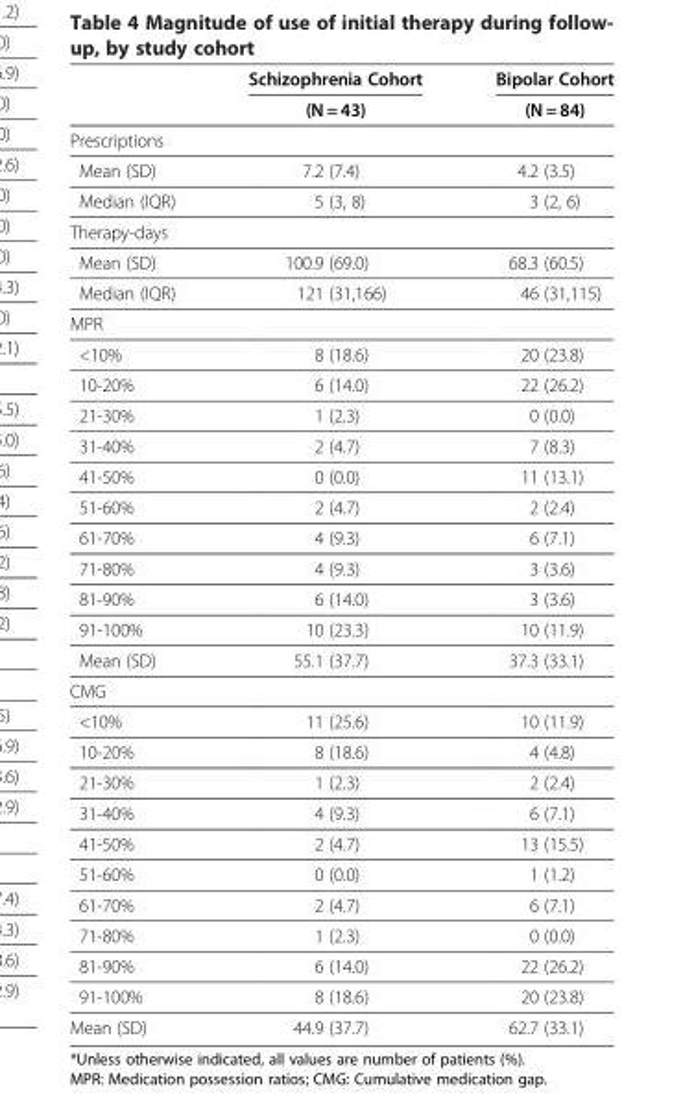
<table><thead><tr><td rowspan="2"></td><td rowspan="2">Schizophrenia Cohort (N = 43)</td><td rowspan="2">Bipolar Cohort (N = 84)</td></tr><tr></tr></thead><tbody><tr><td colspan="3">Prescriptions</td></tr><tr><td>Mean (SD)</td><td>7.2 (7.4)</td><td>4.2 (3.5)</td></tr><tr><td>Median (IQR)</td><td>5 (3, 8)</td><td>3 (2, 6)</td></tr><tr><td colspan="3">Therapy-days</td></tr><tr><td>Mean (SD)</td><td>100.9 (69.0)</td><td>68.3 (60.5)</td></tr><tr><td>Median (IQR)</td><td>121 (31,166)</td><td>46 (31,115)</td></tr><tr><td colspan="3">MPR</td></tr><tr><td>&lt;10%</td><td>8 (18.6)</td><td>20 (23.8)</td></tr><tr><td>10-20%</td><td>6 (14.0)</td><td>22 (26.2)</td></tr><tr><td>21-30%</td><td>1 (2.3)</td><td>0 (0.0)</td></tr><tr><td>31-40%</td><td>2 (4.7)</td><td>7 (8.3)</td></tr><tr><td>41-50%</td><td>0 (0.0)</td><td>11 (13.1)</td></tr><tr><td>51-60%</td><td>2 (4.7)</td><td>2 (2.4)</td></tr><tr><td>61-70%</td><td>4 (9.3)</td><td>6 (7.1)</td></tr><tr><td>71-80%</td><td>4 (9.3)</td><td>3 (3.6)</td></tr><tr><td>81-90%</td><td>6 (14.0)</td><td>3 (3.6)</td></tr><tr><td>91-100%</td><td>10 (23.3)</td><td>10 (11.9)</td></tr><tr><td>Mean (SD)</td><td>55.1 (37.7)</td><td>37.3 (33.1)</td></tr><tr><td colspan="3">CMG</td></tr><tr><td>&lt;10%</td><td>11 (25.6)</td><td>10 (11.9)</td></tr><tr><td>10-20%</td><td>8 (18.6)</td><td>4 (4.8)</td></tr><tr><td>21-30%</td><td>1 (2.3)</td><td>2 (2.4)</td></tr><tr><td>31-40%</td><td>4 (9.3)</td><td>6 (7.1)</td></tr><tr><td>41-50%</td><td>2 (4.7)</td><td>13 (15.5)</td></tr><tr><td>51-60%</td><td>0 (0.0)</td><td>1 (1.2)</td></tr><tr><td>61-70%</td><td>2 (4.7)</td><td>6 (7.1)</td></tr><tr><td>71-80%</td><td>1 (2.3)</td><td>0 (0.0)</td></tr><tr><td>81-90%</td><td>6 (14.0)</td><td>22 (26.2)</td></tr><tr><td>91-100%</td><td>8 (18.6)</td><td>20 (23.8)</td></tr><tr><td>Mean (SD)</td><td>44.9 (37.7)</td><td>62.7 (33.1)</td></tr></tbody></table>